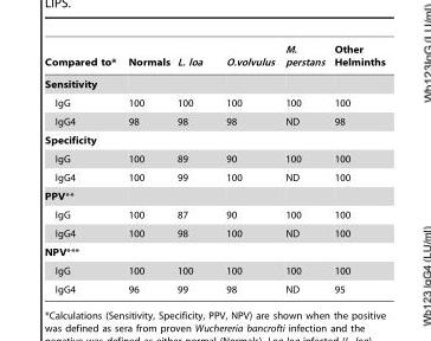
<table><thead><tr><td>Compared to*</td><td>Normals</td><td>L. loa</td><td>O.volvulus</td><td>M. perstans</td><td>Other Helminths</td></tr></thead><tbody><tr><td colspan="6">Sensitivity</td></tr><tr><td>IgG</td><td>100</td><td>100</td><td>100</td><td>100</td><td>100</td></tr><tr><td>IgG4</td><td>98</td><td>98</td><td>98</td><td>ND</td><td>98</td></tr><tr><td colspan="6">Specificity</td></tr><tr><td>IgG</td><td>100</td><td>89</td><td>90</td><td>100</td><td>100</td></tr><tr><td>IgG4</td><td>100</td><td>99</td><td>100</td><td>ND</td><td>100</td></tr><tr><td colspan="6">PPV**</td></tr><tr><td>IgG</td><td>100</td><td>87</td><td>90</td><td>100</td><td>100</td></tr><tr><td>IgG4</td><td>100</td><td>98</td><td>100</td><td>ND</td><td>100</td></tr><tr><td colspan="6">NPV***</td></tr><tr><td>IgG</td><td>100</td><td>100</td><td>100</td><td>100</td><td>100</td></tr><tr><td>IgG4</td><td>96</td><td>99</td><td>98</td><td>ND</td><td>95</td></tr></tbody></table>